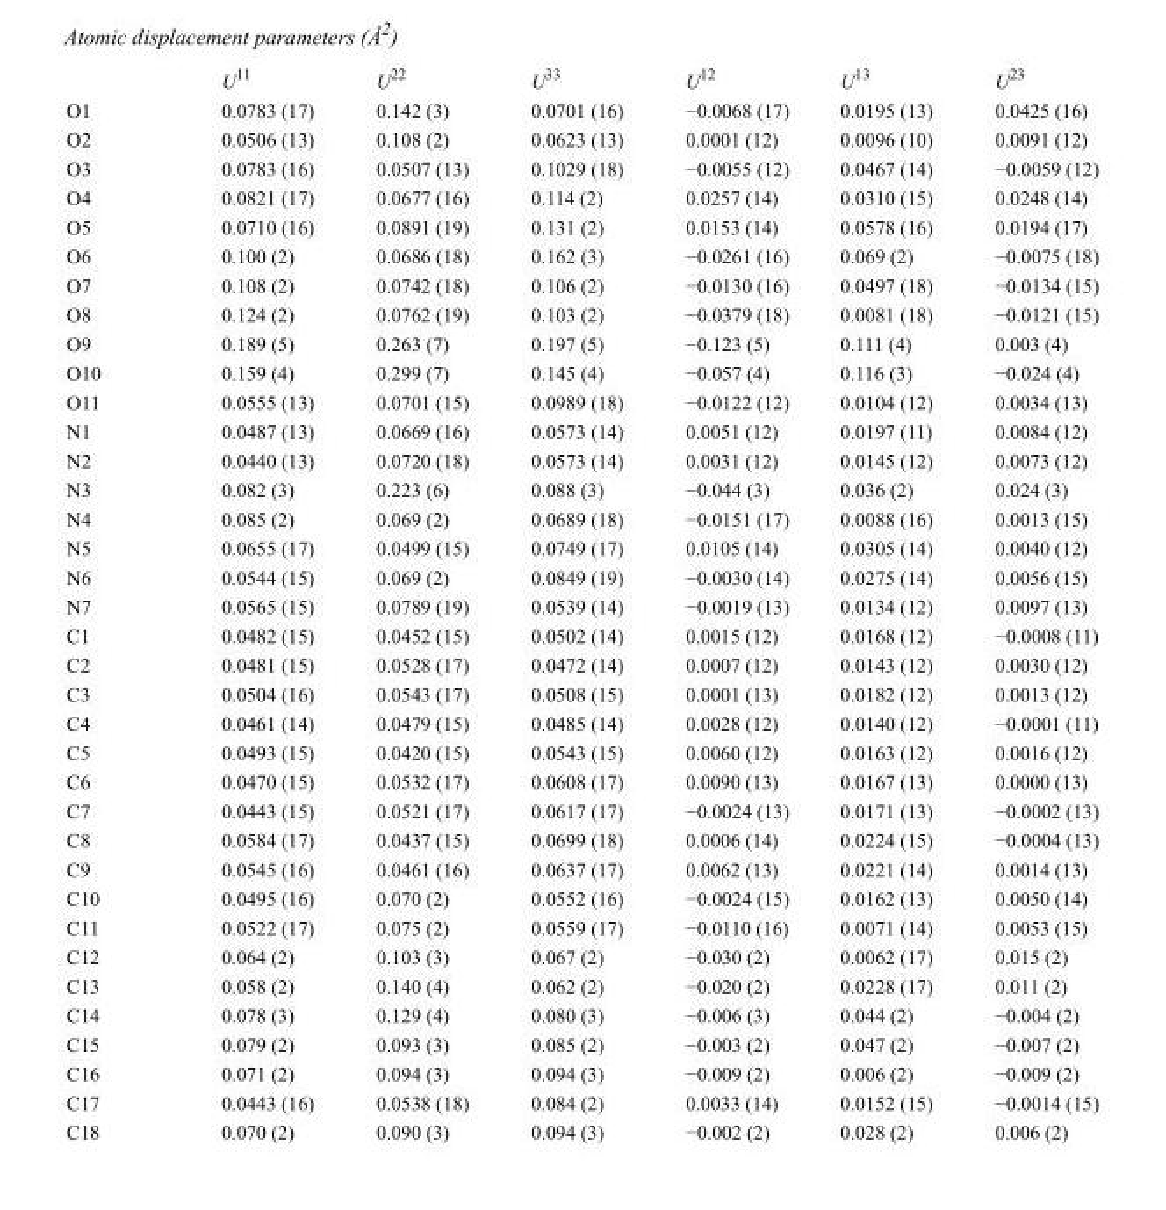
<table><thead><tr><td></td><td>U<sup>11</sup></td><td>U<sup>22</sup></td><td>U<sup>33</sup></td><td>U<sup>12</sup></td><td>U<sup>13</sup></td><td>U<sup>23</sup></td></tr></thead><tbody><tr><td>O1</td><td>0.0783 (17)</td><td>0.142 (3)</td><td>0.0701 (16)</td><td>−0.0068 (17)</td><td>0.0195 (13)</td><td>0.0425 (16)</td></tr><tr><td>O2</td><td>0.0506 (13)</td><td>0.108 (2)</td><td>0.0623 (13)</td><td>0.0001 (12)</td><td>0.0096 (10)</td><td>0.0091 (12)</td></tr><tr><td>O3</td><td>0.0783 (16)</td><td>0.0507 (13)</td><td>0.1029 (18)</td><td>−0.0055 (12)</td><td>0.0467 (14)</td><td>−0.0059 (12)</td></tr><tr><td>O4</td><td>0.0821 (17)</td><td>0.0677 (16)</td><td>0.114 (2)</td><td>0.0257 (14)</td><td>0.0310 (15)</td><td>0.0248 (14)</td></tr><tr><td>O5</td><td>0.0710 (16)</td><td>0.0891 (19)</td><td>0.131 (2)</td><td>0.0153 (14)</td><td>0.0578 (16)</td><td>0.0194 (17)</td></tr><tr><td>O6</td><td>0.100 (2)</td><td>0.0686 (18)</td><td>0.162 (3)</td><td>−0.0261 (16)</td><td>0.069 (2)</td><td>−0.0075 (18)</td></tr><tr><td>O7</td><td>0.108 (2)</td><td>0.0742 (18)</td><td>0.106 (2)</td><td>−0.0130 (16)</td><td>0.0497 (18)</td><td>−0.0134 (15)</td></tr><tr><td>O8</td><td>0.124 (2)</td><td>0.0762 (19)</td><td>0.103 (2)</td><td>−0.0379 (18)</td><td>0.0081 (18)</td><td>−0.0121 (15)</td></tr><tr><td>O9</td><td>0.189 (5)</td><td>0.263 (7)</td><td>0.197 (5)</td><td>−0.123 (5)</td><td>0.111 (4)</td><td>0.003 (4)</td></tr><tr><td>O10</td><td>0.159 (4)</td><td>0.299 (7)</td><td>0.145 (4)</td><td>−0.057 (4)</td><td>0.116 (3)</td><td>−0.024 (4)</td></tr><tr><td>O11</td><td>0.0555 (13)</td><td>0.0701 (15)</td><td>0.0989 (18)</td><td>−0.0122 (12)</td><td>0.0104 (12)</td><td>0.0034 (13)</td></tr><tr><td>N1</td><td>0.0487 (13)</td><td>0.0669 (16)</td><td>0.0573 (14)</td><td>0.0051 (12)</td><td>0.0197 (11)</td><td>0.0084 (12)</td></tr><tr><td>N2</td><td>0.0440 (13)</td><td>0.0720 (18)</td><td>0.0573 (14)</td><td>0.0031 (12)</td><td>0.0145 (12)</td><td>0.0073 (12)</td></tr><tr><td>N3</td><td>0.082 (3)</td><td>0.223 (6)</td><td>0.088 (3)</td><td>−0.044 (3)</td><td>0.036 (2)</td><td>0.024 (3)</td></tr><tr><td>N4</td><td>0.085 (2)</td><td>0.069 (2)</td><td>0.0689 (18)</td><td>−0.0151 (17)</td><td>0.0088 (16)</td><td>0.0013 (15)</td></tr><tr><td>N5</td><td>0.0655 (17)</td><td>0.0499 (15)</td><td>0.0749 (17)</td><td>0.0105 (14)</td><td>0.0305 (14)</td><td>0.0040 (12)</td></tr><tr><td>N6</td><td>0.0544 (15)</td><td>0.069 (2)</td><td>0.0849 (19)</td><td>−0.0030 (14)</td><td>0.0275 (14)</td><td>0.0056 (15)</td></tr><tr><td>N7</td><td>0.0565 (15)</td><td>0.0789 (19)</td><td>0.0539 (14)</td><td>−0.0019 (13)</td><td>0.0134 (12)</td><td>0.0097 (13)</td></tr><tr><td>C1</td><td>0.0482 (15)</td><td>0.0452 (15)</td><td>0.0502 (14)</td><td>0.0015 (12)</td><td>0.0168 (12)</td><td>−0.0008 (11)</td></tr><tr><td>C2</td><td>0.0481 (15)</td><td>0.0528 (17)</td><td>0.0472 (14)</td><td>0.0007 (12)</td><td>0.0143 (12)</td><td>0.0030 (12)</td></tr><tr><td>C3</td><td>0.0504 (16)</td><td>0.0543 (17)</td><td>0.0508 (15)</td><td>0.0001 (13)</td><td>0.0182 (12)</td><td>0.0013 (12)</td></tr><tr><td>C4</td><td>0.0461 (14)</td><td>0.0479 (15)</td><td>0.0485 (14)</td><td>0.0028 (12)</td><td>0.0140 (12)</td><td>−0.0001 (11)</td></tr><tr><td>C5</td><td>0.0493 (15)</td><td>0.0420 (15)</td><td>0.0543 (15)</td><td>0.0060 (12)</td><td>0.0163 (12)</td><td>0.0016 (12)</td></tr><tr><td>C6</td><td>0.0470 (15)</td><td>0.0532 (17)</td><td>0.0608 (17)</td><td>0.0090 (13)</td><td>0.0167 (13)</td><td>0.0000 (13)</td></tr><tr><td>C7</td><td>0.0443 (15)</td><td>0.0521 (17)</td><td>0.0617 (17)</td><td>−0.0024 (13)</td><td>0.0171 (13)</td><td>−0.0002 (13)</td></tr><tr><td>C8</td><td>0.0584 (17)</td><td>0.0437 (15)</td><td>0.0699 (18)</td><td>0.0006 (14)</td><td>0.0224 (15)</td><td>−0.0004 (13)</td></tr><tr><td>C9</td><td>0.0545 (16)</td><td>0.0461 (16)</td><td>0.0637 (17)</td><td>0.0062 (13)</td><td>0.0221 (14)</td><td>0.0014 (13)</td></tr><tr><td>C10</td><td>0.0495 (16)</td><td>0.070 (2)</td><td>0.0552 (16)</td><td>−0.0024 (15)</td><td>0.0162 (13)</td><td>0.0050 (14)</td></tr><tr><td>C11</td><td>0.0522 (17)</td><td>0.075 (2)</td><td>0.0559 (17)</td><td>−0.0110 (16)</td><td>0.0071 (14)</td><td>0.0053 (15)</td></tr><tr><td>C12</td><td>0.064 (2)</td><td>0.103 (3)</td><td>0.067 (2)</td><td>−0.030 (2)</td><td>0.0062 (17)</td><td>0.015 (2)</td></tr><tr><td>C13</td><td>0.058 (2)</td><td>0.140 (4)</td><td>0.062 (2)</td><td>−0.020 (2)</td><td>0.0228 (17)</td><td>0.011 (2)</td></tr><tr><td>C14</td><td>0.078 (3)</td><td>0.129 (4)</td><td>0.080 (3)</td><td>−0.006 (3)</td><td>0.044 (2)</td><td>−0.004 (2)</td></tr><tr><td>C15</td><td>0.079 (2)</td><td>0.093 (3)</td><td>0.085 (2)</td><td>−0.003 (2)</td><td>0.047 (2)</td><td>−0.007 (2)</td></tr><tr><td>C16</td><td>0.071 (2)</td><td>0.094 (3)</td><td>0.094 (3)</td><td>−0.009 (2)</td><td>0.006 (2)</td><td>−0.009 (2)</td></tr><tr><td>C17</td><td>0.0443 (16)</td><td>0.0538 (18)</td><td>0.084 (2)</td><td>0.0033 (14)</td><td>0.0152 (15)</td><td>−0.0014 (15)</td></tr><tr><td>C18</td><td>0.070 (2)</td><td>0.090 (3)</td><td>0.094 (3)</td><td>−0.002 (2)</td><td>0.028 (2)</td><td>0.006 (2)</td></tr></tbody></table>